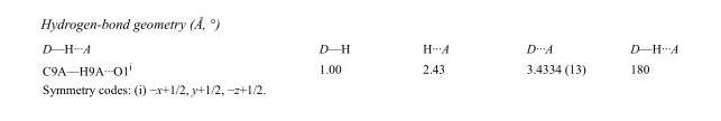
<table><tbody><tr><td>D—H···A</td><td>D—H</td><td>H···A</td><td>D···A</td><td>D—H···A</td></tr><tr><td>C9A—H9A···O1<sup>i</sup></td><td>1.00</td><td>2.43</td><td>3.4334 (13)</td><td>180</td></tr></tbody></table>